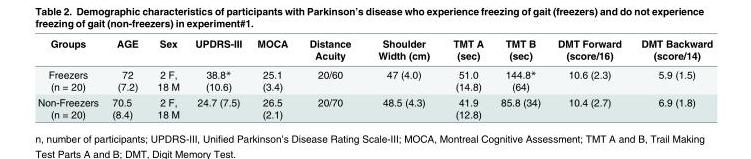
<table><thead><tr><td>Groups</td><td>AGE</td><td>Sex</td><td>UPDRS-III</td><td>MOCA</td><td>Distance Acuity</td><td>Shoulder Width (cm)</td><td>TMT A (sec)</td><td>TMT B (sec)</td><td>DMT Forward (score/16)</td><td>DMT Backward (score/14)</td></tr></thead><tbody><tr><td>Freezers (n = 20)</td><td>72 (7.2)</td><td>2 F, 18 M</td><td>38.8* (10.6)</td><td>25.1 (3.4)</td><td>20/60</td><td>47 (4.0)</td><td>51.0 (14.8)</td><td>144.8* (64)</td><td>10.6 (2.3)</td><td>5.9 (1.5)</td></tr><tr><td>Non-Freezers (n = 20)</td><td>70.5 (8.4)</td><td>2 F, 18 M</td><td>24.7 (7.5)</td><td>26.5 (2.1)</td><td>20/70</td><td>48.5 (4.3)</td><td>41.9 (12.8)</td><td>85.8 (34)</td><td>10.4 (2.7)</td><td>6.9 (1.8)</td></tr></tbody></table>